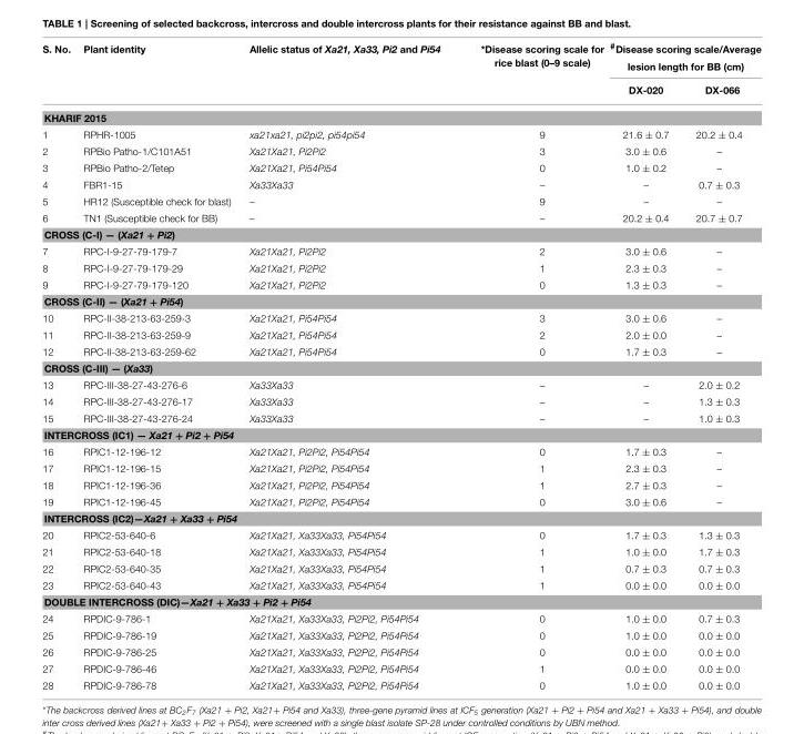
<table><thead><tr><td rowspan="2">S. No.</td><td rowspan="2">Plant identity</td><td rowspan="2">Allelic status of Xa21, Xa33, Pi2 and Pi54</td><td rowspan="2">*Disease scoring scale for rice blast (0–9 scale)</td><td colspan="2">#Disease scoring scale/Average lesion length for BB (cm)</td></tr><tr><td>DX-020</td><td>DX-066</td></tr></thead><tbody><tr><td colspan="6">KHARIF 2015</td></tr><tr><td>1</td><td>RPHR-1005</td><td>xa21xa21, pi2pi2, pi54pi54</td><td>9</td><td>21.6 ± 0.7</td><td>20.2 ± 0.4</td></tr><tr><td>2</td><td>RPBio Patho-1/C101A51</td><td>Xa21Xa21, Pi2Pi2</td><td>3</td><td>3.0 ± 0.6</td><td>–</td></tr><tr><td>3</td><td>RPBio Patho-2/Tetep</td><td>Xa21Xa21, Pi54Pi54</td><td>0</td><td>1.0 ± 0.2</td><td>–</td></tr><tr><td>4</td><td>FBR1-15</td><td>Xa33Xa33</td><td>–</td><td>–</td><td>0.7 ± 0.3</td></tr><tr><td>5</td><td>HR12 (Susceptible check for blast)</td><td>–</td><td>9</td><td>–</td><td>–</td></tr><tr><td>6</td><td>TN1 (Susceptible check for BB)</td><td>–</td><td>–</td><td>20.2 ± 0.4</td><td>20.7 ± 0.7</td></tr><tr><td colspan="6">CROSS (C-I) — (Xa21 + Pi2)</td></tr><tr><td>7</td><td>RPC-I-9-27-79-179-7</td><td>Xa21Xa21, Pi2Pi2</td><td>2</td><td>3.0 ± 0.6</td><td>–</td></tr><tr><td>8</td><td>RPC-I-9-27-79-179-29</td><td>Xa21Xa21, Pi2Pi2</td><td>1</td><td>2.3 ± 0.3</td><td>–</td></tr><tr><td>9</td><td>RPC-I-9-27-79-179-120</td><td>Xa21Xa21, Pi2Pi2</td><td>0</td><td>1.3 ± 0.3</td><td>–</td></tr><tr><td colspan="6">CROSS (C-II) — (Xa21 + Pi54)</td></tr><tr><td>10</td><td>RPC-II-38-213-63-259-3</td><td>Xa21Xa21, Pi54Pi54</td><td>3</td><td>3.0 ± 0.6</td><td>–</td></tr><tr><td>11</td><td>RPC-II-38-213-63-259-9</td><td>Xa21Xa21, Pi54Pi54</td><td>2</td><td>2.0 ± 0.0</td><td>–</td></tr><tr><td>12</td><td>RPC-II-38-213-63-259-62</td><td>Xa21Xa21, Pi54Pi54</td><td>0</td><td>1.7 ± 0.3</td><td>–</td></tr><tr><td colspan="6">CROSS (C-III) — (Xa33)</td></tr><tr><td>13</td><td>RPC-III-38-27-43-276-6</td><td>Xa33Xa33</td><td>–</td><td>–</td><td>2.0 ± 0.2</td></tr><tr><td>14</td><td>RPC-III-38-27-43-276-17</td><td>Xa33Xa33</td><td>–</td><td>–</td><td>1.3 ± 0.3</td></tr><tr><td>15</td><td>RPC-III-38-27-43-276-24</td><td>Xa33Xa33</td><td>–</td><td>–</td><td>1.0 ± 0.3</td></tr><tr><td colspan="6">INTERCROSS (IC1) — Xa21 + Pi2 + Pi54</td></tr><tr><td>16</td><td>RPIC1-12-196-12</td><td>Xa21Xa21, Pi2Pi2, Pi54Pi54</td><td>0</td><td>1.7 ± 0.3</td><td>–</td></tr><tr><td>17</td><td>RPIC1-12-196-15</td><td>Xa21Xa21, Pi2Pi2, Pi54Pi54</td><td>1</td><td>2.3 ± 0.3</td><td>–</td></tr><tr><td>18</td><td>RPIC1-12-196-36</td><td>Xa21Xa21, Pi2Pi2, Pi54Pi54</td><td>1</td><td>2.7 ± 0.3</td><td>–</td></tr><tr><td>19</td><td>RPIC1-12-196-45</td><td>Xa21Xa21, Pi2Pi2, Pi54Pi54</td><td>0</td><td>3.0 ± 0.6</td><td>–</td></tr><tr><td colspan="6">INTERCROSS (IC2)—Xa21 + Xa33 + Pi54</td></tr><tr><td>20</td><td>RPIC2-53-640-6</td><td>Xa21Xa21, Xa33Xa33, Pi54Pi54</td><td>0</td><td>1.7 ± 0.3</td><td>1.3 ± 0.3</td></tr><tr><td>21</td><td>RPIC2-53-640-18</td><td>Xa21Xa21, Xa33Xa33, Pi54Pi54</td><td>1</td><td>1.0 ± 0.0</td><td>1.7 ± 0.3</td></tr><tr><td>22</td><td>RPIC2-53-640-35</td><td>Xa21Xa21, Xa33Xa33, Pi54Pi54</td><td>1</td><td>0.7 ± 0.3</td><td>0.7 ± 0.3</td></tr><tr><td>23</td><td>RPIC2-53-640-43</td><td>Xa21Xa21, Xa33Xa33, Pi54Pi54</td><td>1</td><td>0.0 ± 0.0</td><td>0.0 ± 0.0</td></tr><tr><td colspan="6">DOUBLE INTERCROSS (DIC)—Xa21 + Xa33 + Pi2 + Pi54</td></tr><tr><td>24</td><td>RPDIC-9-786-1</td><td>Xa21Xa21, Xa33Xa33, Pi2Pi2, Pi54Pi54</td><td>0</td><td>1.0 ± 0.0</td><td>0.7 ± 0.3</td></tr><tr><td>25</td><td>RPDIC-9-786-19</td><td>Xa21Xa21, Xa33Xa33, Pi2Pi2, Pi54Pi54</td><td>0</td><td>1.0 ± 0.0</td><td>0.0 ± 0.0</td></tr><tr><td>26</td><td>RPDIC-9-786-25</td><td>Xa21Xa21, Xa33Xa33, Pi2Pi2, Pi54Pi54</td><td>0</td><td>0.0 ± 0.0</td><td>0.0 ± 0.0</td></tr><tr><td>27</td><td>RPDIC-9-786-46</td><td>Xa21Xa21, Xa33Xa33, Pi2Pi2, Pi54Pi54</td><td>1</td><td>0.0 ± 0.0</td><td>0.0 ± 0.0</td></tr><tr><td>28</td><td>RPDIC-9-786-78</td><td>Xa21Xa21, Xa33Xa33, Pi2Pi2, Pi54Pi54</td><td>0</td><td>1.0 ± 0.0</td><td>0.0 ± 0.0</td></tr></tbody></table>